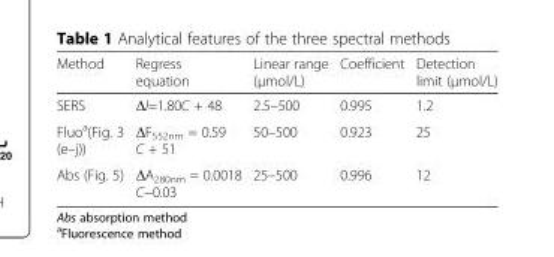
<table><thead><tr><td>Method</td><td>Regress equation</td><td>Linear range (μmol/L)</td><td>Coefficient</td><td>Detection limit (μmol/L)</td></tr></thead><tbody><tr><td>SERS</td><td>ΔI=1.80C + 48</td><td>2.5–500</td><td>0.995</td><td>1.2</td></tr><tr><td>Fluo<sup>a</sup>(Fig. 3 (e–j))</td><td>ΔF<sub>552nm</sub> = 0.59 C + 51</td><td>50–500</td><td>0.923</td><td>25</td></tr><tr><td>Abs (Fig. 5)</td><td>ΔA<sub>280nm</sub> = 0.0018 C−0.03</td><td>25–500</td><td>0.996</td><td>12</td></tr></tbody></table>